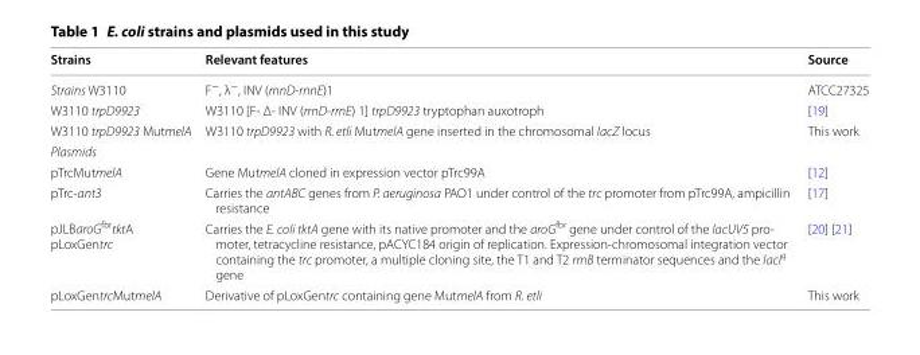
<table><thead><tr><td>Strains</td><td>Relevant features</td><td>Source</td></tr></thead><tbody><tr><td>Strains W3110</td><td>F<sup>−</sup>, λ<sup>−</sup>, INV (rnnD‑rnnE)1</td><td>ATCC27325</td></tr><tr><td>W3110 trpD9923</td><td>W3110 [F‑ Δ‑ INV (rrnD‑rrnE) 1] trpD9923 tryptophan auxotroph</td><td>[19]</td></tr><tr><td>W3110 trpD9923 MutmelA</td><td>W3110 trpD9923 with R. etli MutmelA gene inserted in the chromosomal lacZ locus</td><td>This work</td></tr><tr><td colspan="3">Plasmids</td></tr><tr><td>pTrcMutmelA</td><td>Gene MutmelA cloned in expression vector pTrc99A</td><td>[12]</td></tr><tr><td>pTrc‑ant3</td><td>Carries the antABC genes from P. aeruginosa PAO1 under control of the trc promoter from pTrc99A, ampicillin resistance</td><td>[17]</td></tr><tr><td>pJLBaroG<sup>fbr</sup>tktA pLoxGentrc</td><td>Carries the E. coli tktA gene with its native promoter and the aroGfbr gene under control of the lacUV5 pro‑ moter, tetracycline resistance, pACYC184 origin of replication. Expression‑chromosomal integration vector containing the trc promoter, a multiple cloning site, the T1 and T2 rrnB terminator sequences and the lacIq gene</td><td>[20] [21]</td></tr><tr><td>pLoxGentrcMutmelA</td><td>Derivative of pLoxGentrc containing gene MutmelA from R. etli</td><td>This work</td></tr></tbody></table>